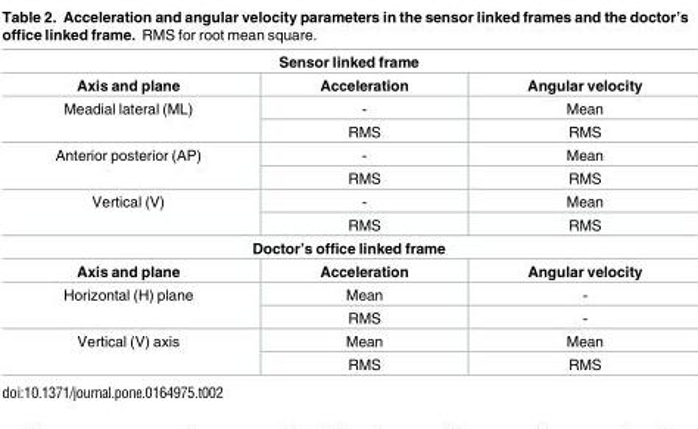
<table><tbody><tr><td colspan="3">Sensor linked frame</td></tr><tr><td>Axis and plane</td><td>Acceleration</td><td>Angular velocity</td></tr><tr><td rowspan="2">Meadial lateral (ML)</td><td>-</td><td>Mean</td></tr><tr><td>RMS</td><td>RMS</td></tr><tr><td rowspan="2">Anterior posterior (AP)</td><td>-</td><td>Mean</td></tr><tr><td>RMS</td><td>RMS</td></tr><tr><td rowspan="2">Vertical (V)</td><td>-</td><td>Mean</td></tr><tr><td>RMS</td><td>RMS</td></tr><tr><td colspan="3">Doctor’s office linked frame</td></tr><tr><td>Axis and plane</td><td>Acceleration</td><td>Angular velocity</td></tr><tr><td rowspan="2">Horizontal (H) plane</td><td>Mean</td><td>-</td></tr><tr><td>RMS</td><td>-</td></tr><tr><td rowspan="2">Vertical (V) axis</td><td>Mean</td><td>Mean</td></tr><tr><td>RMS</td><td>RMS</td></tr></tbody></table>